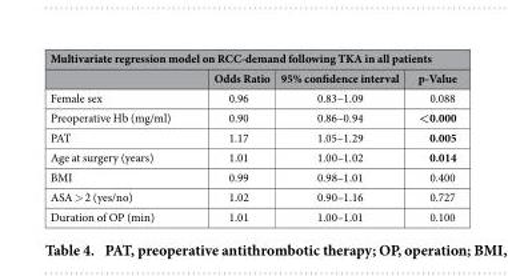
<table><thead><tr><td colspan="4">Multivariate regression model on RCC-demand following TKA in all patients</td></tr><tr><td></td><td>Odds Ratio</td><td>95% confidence interval</td><td>p-Value</td></tr></thead><tbody><tr><td>Female sex</td><td>0.96</td><td>0.83–1.09</td><td>0.088</td></tr><tr><td>Preoperative Hb (mg/ml)</td><td>0.90</td><td>0.86–0.94</td><td>&lt;0.000</td></tr><tr><td>PAT</td><td>1.17</td><td>1.05–1.29</td><td>0.005</td></tr><tr><td>Age at surgery (years)</td><td>1.01</td><td>1.00–1.02</td><td>0.014</td></tr><tr><td>BMI</td><td>0.99</td><td>0.98–1.01</td><td>0.400</td></tr><tr><td>ASA &gt; 2 (yes/no)</td><td>1.02</td><td>0.90–1.16</td><td>0.727</td></tr><tr><td>Duration of OP (min)</td><td>1.01</td><td>1.00–1.01</td><td>0.100</td></tr></tbody></table>